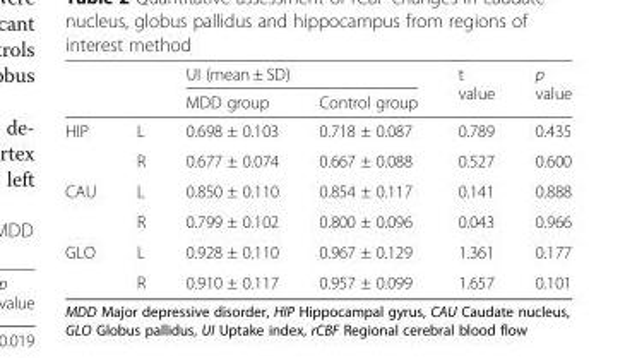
<table><thead><tr><td rowspan="2"></td><td rowspan="2"></td><td colspan="2">UI (mean ± SD)</td><td rowspan="2">t value</td><td rowspan="2">p value</td></tr><tr><td>MDD group</td><td>Control group</td></tr></thead><tbody><tr><td rowspan="2">HIP</td><td>L</td><td>0.698 ± 0.103</td><td>0.718 ± 0.087</td><td>0.789</td><td>0.435</td></tr><tr><td>R</td><td>0.677 ± 0.074</td><td>0.667 ± 0.088</td><td>0.527</td><td>0.600</td></tr><tr><td rowspan="2">CAU</td><td>L</td><td>0.850 ± 0.110</td><td>0.854 ± 0.117</td><td>0.141</td><td>0.888</td></tr><tr><td>R</td><td>0.799 ± 0.102</td><td>0.800 ± 0.096</td><td>0.043</td><td>0.966</td></tr><tr><td rowspan="2">GLO</td><td>L</td><td>0.928 ± 0.110</td><td>0.967 ± 0.129</td><td>1.361</td><td>0.177</td></tr><tr><td>R</td><td>0.910 ± 0.117</td><td>0.957 ± 0.099</td><td>1.657</td><td>0.101</td></tr></tbody></table>